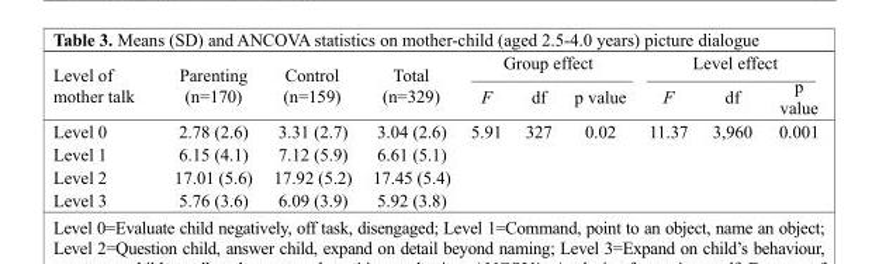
<table><thead><tr><td rowspan="2">Level of mother talk</td><td rowspan="2">Parenting (n=170)</td><td rowspan="2">Control (n=159)</td><td rowspan="2">Total (n=329)</td><td colspan="3">Group effect</td><td colspan="3">Level effect</td></tr><tr><td>F</td><td>df</td><td>p value</td><td>F</td><td>df</td><td>p value</td></tr></thead><tbody><tr><td>Level 0</td><td>2.78 (2.6)</td><td>3.31 (2.7)</td><td>3.04 (2.6)</td><td>5.91</td><td>327</td><td>0.02</td><td>11.37</td><td>3,960</td><td>0.001</td></tr><tr><td>Level 1</td><td>6.15 (4.1)</td><td>7.12 (5.9)</td><td>6.61 (5.1)</td><td></td><td></td><td></td><td></td><td></td><td></td></tr><tr><td>Level 2</td><td>17.01 (5.6)</td><td>17.92 (5.2)</td><td>17.45 (5.4)</td><td></td><td></td><td></td><td></td><td></td><td></td></tr><tr><td>Level 3</td><td>5.76 (3.6)</td><td>6.09 (3.9)</td><td>5.92 (3.8)</td><td></td><td></td><td></td><td></td><td></td><td></td></tr></tbody></table>